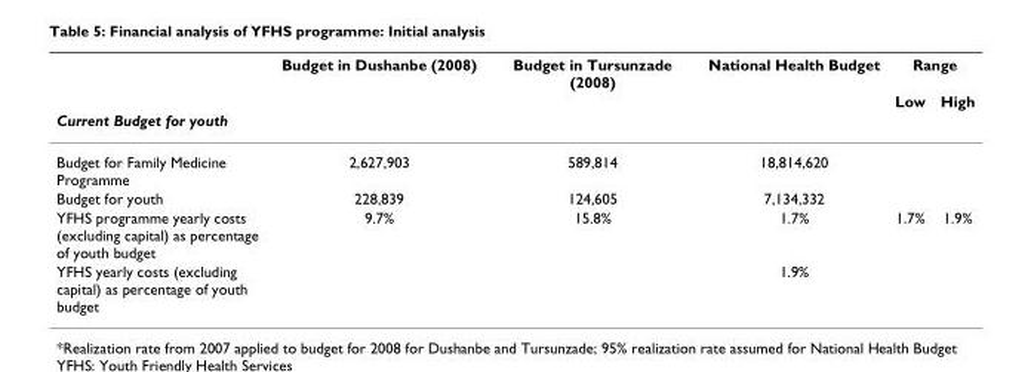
<table><thead><tr><td rowspan="3">Current Budget for youth</td><td rowspan="3">Budget in Dushanbe (2008)</td><td rowspan="3">Budget in Tursunzade (2008)</td><td rowspan="3">National Health Budget</td><td colspan="2">Range</td></tr><tr><td rowspan="2">Low</td><td rowspan="2">High</td></tr><tr></tr></thead><tbody><tr><td>Budget for Family Medicine Programme</td><td>2,627,903</td><td>589,814</td><td>18,814,620</td><td></td><td></td></tr><tr><td>Budget for youth</td><td>228,839</td><td>124,605</td><td>7,134,332</td><td></td><td></td></tr><tr><td>YFHS programme yearly costs (excluding capital) as percentage of youth budget</td><td>9.7%</td><td>15.8%</td><td>1.7%</td><td>1.7%</td><td>1.9%</td></tr><tr><td>YFHS yearly costs (excluding capital) as percentage of youth budget</td><td></td><td></td><td>1.9%</td><td></td><td></td></tr></tbody></table>